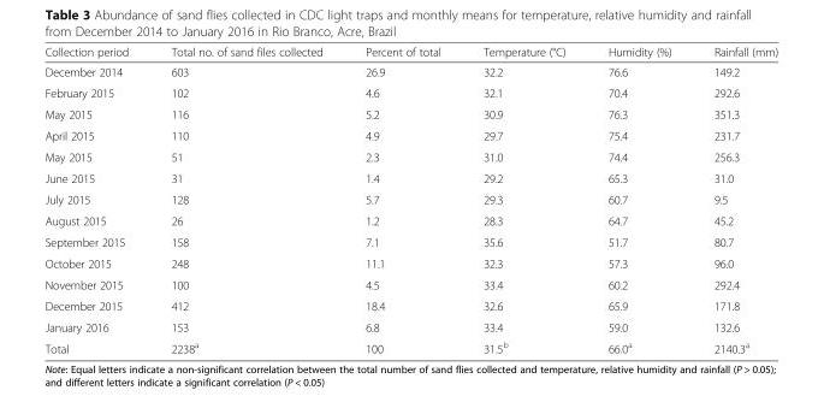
<table><thead><tr><td>Collection period</td><td>Total no. of sand files collected</td><td>Percent of total</td><td>Temperature (°C)</td><td>Humidity (%)</td><td>Rainfall (mm)</td></tr></thead><tbody><tr><td>December 2014</td><td>603</td><td>26.9</td><td>32.2</td><td>76.6</td><td>149.2</td></tr><tr><td>February 2015</td><td>102</td><td>4.6</td><td>32.1</td><td>70.4</td><td>292.6</td></tr><tr><td>May 2015</td><td>116</td><td>5.2</td><td>30.9</td><td>76.3</td><td>351.3</td></tr><tr><td>April 2015</td><td>110</td><td>4.9</td><td>29.7</td><td>75.4</td><td>231.7</td></tr><tr><td>May 2015</td><td>51</td><td>2.3</td><td>31.0</td><td>74.4</td><td>256.3</td></tr><tr><td>June 2015</td><td>31</td><td>1.4</td><td>29.2</td><td>65.3</td><td>31.0</td></tr><tr><td>July 2015</td><td>128</td><td>5.7</td><td>29.3</td><td>60.7</td><td>9.5</td></tr><tr><td>August 2015</td><td>26</td><td>1.2</td><td>28.3</td><td>64.7</td><td>45.2</td></tr><tr><td>September 2015</td><td>158</td><td>7.1</td><td>35.6</td><td>51.7</td><td>80.7</td></tr><tr><td>October 2015</td><td>248</td><td>11.1</td><td>32.3</td><td>57.3</td><td>96.0</td></tr><tr><td>November 2015</td><td>100</td><td>4.5</td><td>33.4</td><td>60.2</td><td>292.4</td></tr><tr><td>December 2015</td><td>412</td><td>18.4</td><td>32.6</td><td>65.9</td><td>171.8</td></tr><tr><td>January 2016</td><td>153</td><td>6.8</td><td>33.4</td><td>59.0</td><td>132.6</td></tr><tr><td>Total</td><td>2238<sup>a</sup></td><td>100</td><td>31.5<sup>b</sup></td><td>66.0<sup>a</sup></td><td>2140.3<sup>a</sup></td></tr></tbody></table>